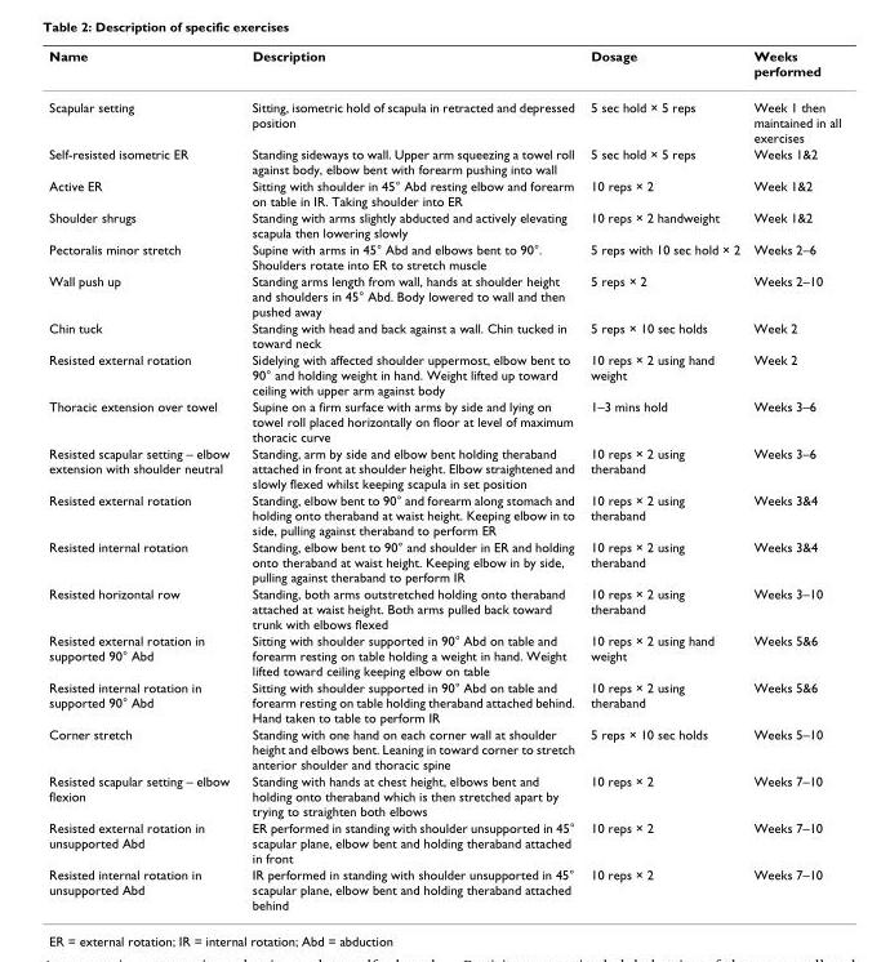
<table><thead><tr><td>Name</td><td>Description</td><td>Dosage</td><td>Weeks performed</td></tr></thead><tbody><tr><td>Scapular setting</td><td>Sitting, isometric hold of scapula in retracted and depressed position</td><td>5 sec hold × 5 reps</td><td>Week 1 then maintained in all exercises</td></tr><tr><td>Self-resisted isometric ER</td><td>Standing sideways to wall. Upper arm squeezing a towel roll against body, elbow bent with forearm pushing into wall</td><td>5 sec hold × 5 reps</td><td>Weeks 1&amp;2</td></tr><tr><td>Active ER</td><td>Sitting with shoulder in 45° Abd resting elbow and forearm on table in IR. Taking shoulder into ER</td><td>10 reps × 2</td><td>Week 1&amp;2</td></tr><tr><td>Shoulder shrugs</td><td>Standing with arms slightly abducted and actively elevating scapula then lowering slowly</td><td>10 reps × 2 handweight</td><td>Week 1&amp;2</td></tr><tr><td>Pectoralis minor stretch</td><td>Supine with arms in 45° Abd and elbows bent to 90°. Shoulders rotate into ER to stretch muscle</td><td>5 reps with 10 sec hold × 2</td><td>Weeks 2–6</td></tr><tr><td>Wall push up</td><td>Standing arms length from wall, hands at shoulder height and shoulders in 45° Abd. Body lowered to wall and then pushed away</td><td>5 reps × 2</td><td>Weeks 2–10</td></tr><tr><td>Chin tuck</td><td>Standing with head and back against a wall. Chin tucked in toward neck</td><td>5 reps × 10 sec holds</td><td>Week 2</td></tr><tr><td>Resisted external rotation</td><td>Sidelying with affected shoulder uppermost, elbow bent to 90° and holding weight in hand. Weight lifted up toward ceiling with upper arm against body</td><td>10 reps × 2 using hand weight</td><td>Week 2</td></tr><tr><td>Thoracic extension over towel</td><td>Supine on a firm surface with arms by side and lying on towel roll placed horizontally on floor at level of maximum thoracic curve</td><td>1–3 mins hold</td><td>Weeks 3–6</td></tr><tr><td>Resisted scapular setting – elbow extension with shoulder neutral</td><td>Standing, arm by side and elbow bent holding theraband attached in front at shoulder height. Elbow straightened and slowly flexed whilst keeping scapula in set position</td><td>10 reps × 2 using theraband</td><td>Weeks 3–6</td></tr><tr><td>Resisted external rotation</td><td>Standing, elbow bent to 90° and forearm along stomach and holding onto theraband at waist height. Keeping elbow in to side, pulling against theraband to perform ER</td><td>10 reps × 2 using theraband</td><td>Weeks 3&amp;4</td></tr><tr><td>Resisted internal rotation</td><td>Standing, elbow bent to 90° and shoulder in ER and holding onto theraband at waist height. Keeping elbow in by side, pulling against theraband to perform IR</td><td>10 reps × 2 using theraband</td><td>Weeks 3&amp;4</td></tr><tr><td>Resisted horizontal row</td><td>Standing, both arms outstretched holding onto theraband attached at waist height. Both arms pulled back toward trunk with elbows flexed</td><td>10 reps × 2 using theraband</td><td>Weeks 3–10</td></tr><tr><td>Resisted external rotation in supported 90° Abd</td><td>Sitting with shoulder supported in 90° Abd on table and forearm resting on table holding a weight in hand. Weight lifted toward ceiling keeping elbow on table</td><td>10 reps × 2 using hand weight</td><td>Weeks 5&amp;6</td></tr><tr><td>Resisted internal rotation in supported 90° Abd</td><td>Sitting with shoulder supported in 90° Abd on table and forearm resting on table holding theraband attached behind. Hand taken to table to perform IR</td><td>10 reps × 2 using theraband</td><td>Weeks 5&amp;6</td></tr><tr><td>Corner stretch</td><td>Standing with one hand on each corner wall at shoulder height and elbows bent. Leaning in toward corner to stretch anterior shoulder and thoracic spine</td><td>5 reps × 10 sec holds</td><td>Weeks 5–10</td></tr><tr><td>Resisted scapular setting – elbow flexion</td><td>Standing with hands at chest height, elbows bent and holding onto theraband which is then stretched apart by trying to straighten both elbows</td><td>10 reps × 2</td><td>Weeks 7–10</td></tr><tr><td>Resisted external rotation in unsupported Abd</td><td>ER performed in standing with shoulder unsupported in 45° scapular plane, elbow bent and holding theraband attached in front</td><td>10 reps × 2</td><td>Weeks 7–10</td></tr><tr><td>Resisted internal rotation in unsupported Abd</td><td>IR performed in standing with shoulder unsupported in 45° scapular plane, elbow bent and holding theraband attached behind</td><td>10 reps × 2</td><td>Weeks 7–10</td></tr></tbody></table>